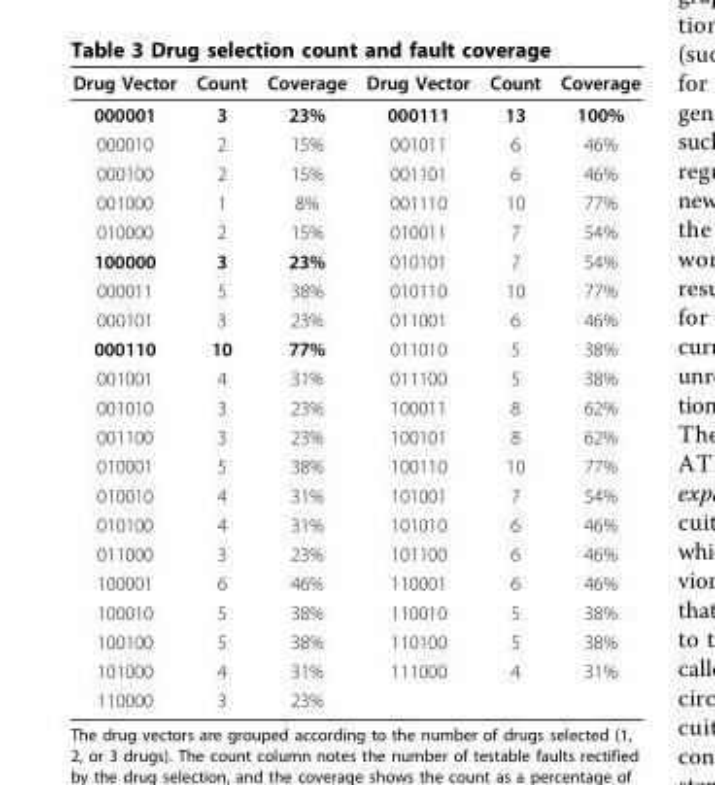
<table><thead><tr><td>Drug Vector</td><td>Count</td><td>Coverage</td><td>Drug Vector</td><td>Count</td><td>Coverage</td></tr></thead><tbody><tr><td>000001</td><td>3</td><td>23%</td><td>000111</td><td>13</td><td>100%</td></tr><tr><td>000010</td><td>2</td><td>15%</td><td>001011</td><td>6</td><td>46%</td></tr><tr><td>000100</td><td>2</td><td>15%</td><td>001101</td><td>6</td><td>46%</td></tr><tr><td>001000</td><td>1</td><td>8%</td><td>001110</td><td>10</td><td>77%</td></tr><tr><td>010000</td><td>2</td><td>15%</td><td>010011</td><td>7</td><td>54%</td></tr><tr><td>100000</td><td>3</td><td>23%</td><td>010101</td><td>7</td><td>54%</td></tr><tr><td>000011</td><td>5</td><td>38%</td><td>010110</td><td>10</td><td>77%</td></tr><tr><td>000101</td><td>3</td><td>23%</td><td>011001</td><td>6</td><td>46%</td></tr><tr><td>000110</td><td>10</td><td>77%</td><td>011010</td><td>5</td><td>38%</td></tr><tr><td>001001</td><td>4</td><td>31%</td><td>011100</td><td>5</td><td>38%</td></tr><tr><td>001010</td><td>3</td><td>23%</td><td>100011</td><td>8</td><td>62%</td></tr><tr><td>001100</td><td>3</td><td>23%</td><td>100101</td><td>8</td><td>62%</td></tr><tr><td>010001</td><td>5</td><td>38%</td><td>100110</td><td>10</td><td>77%</td></tr><tr><td>010010</td><td>4</td><td>31%</td><td>101001</td><td>7</td><td>54%</td></tr><tr><td>010100</td><td>4</td><td>31%</td><td>101010</td><td>6</td><td>46%</td></tr><tr><td>011000</td><td>3</td><td>23%</td><td>101100</td><td>6</td><td>46%</td></tr><tr><td>100001</td><td>6</td><td>46%</td><td>110001</td><td>6</td><td>46%</td></tr><tr><td>100010</td><td>5</td><td>38%</td><td>110010</td><td>5</td><td>38%</td></tr><tr><td>100100</td><td>5</td><td>38%</td><td>110100</td><td>5</td><td>38%</td></tr><tr><td>101000</td><td>4</td><td>31%</td><td>111000</td><td>4</td><td>31%</td></tr><tr><td>110000</td><td>3</td><td>23%</td><td></td><td></td><td></td></tr></tbody></table>